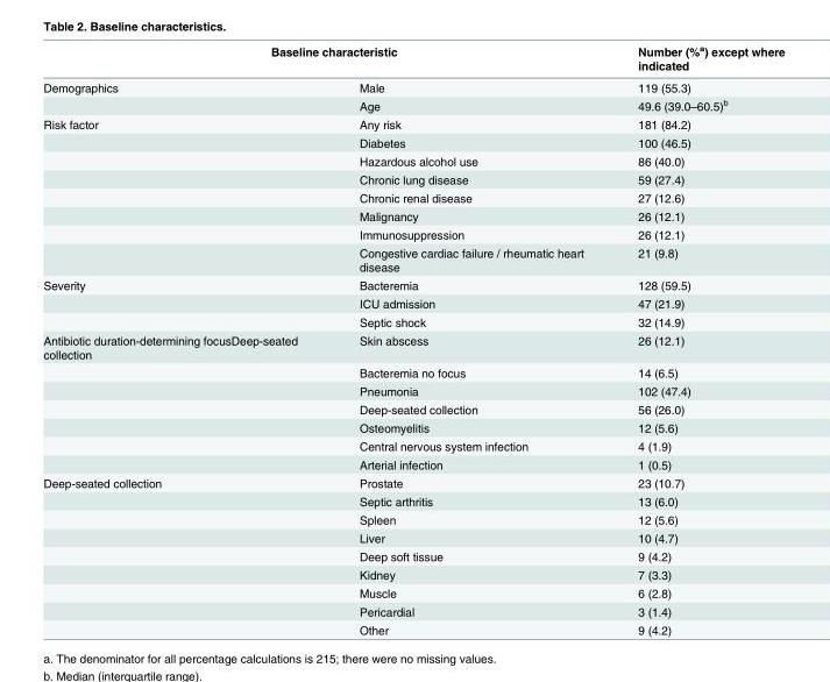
<table><thead><tr><td colspan="2">Baseline characteristic</td><td rowspan="2">Number (%<sup>a</sup>) except where indicated 119 (55.3)</td></tr><tr><td>Demographics</td><td>Male</td></tr></thead><tbody><tr><td></td><td>Age</td><td>49.6 (39.0–60.5)<sup>b</sup></td></tr><tr><td rowspan="8">Risk factor</td><td>Any risk</td><td>181 (84.2)</td></tr><tr><td>Diabetes</td><td>100 (46.5)</td></tr><tr><td>Hazardous alcohol use</td><td>86 (40.0)</td></tr><tr><td>Chronic lung disease</td><td>59 (27.4)</td></tr><tr><td>Chronic renal disease</td><td>27 (12.6)</td></tr><tr><td>Malignancy</td><td>26 (12.1)</td></tr><tr><td>Immunosuppression</td><td>26 (12.1)</td></tr><tr><td>Congestive cardiac failure / rheumatic heart disease</td><td>21 (9.8)</td></tr><tr><td rowspan="3">Severity</td><td>Bacteremia</td><td>128 (59.5)</td></tr><tr><td>ICU admission</td><td>47 (21.9)</td></tr><tr><td>Septic shock</td><td>32 (14.9)</td></tr><tr><td rowspan="7">Antibiotic duration-determining focusDeep-seated collection</td><td>Skin abscess</td><td>26 (12.1)</td></tr><tr><td>Bacteremia no focus</td><td>14 (6.5)</td></tr><tr><td>Pneumonia</td><td>102 (47.4)</td></tr><tr><td>Deep-seated collection</td><td>56 (26.0)</td></tr><tr><td>Osteomyelitis</td><td>12 (5.6)</td></tr><tr><td>Central nervous system infection</td><td>4 (1.9)</td></tr><tr><td>Arterial infection</td><td>1 (0.5)</td></tr><tr><td rowspan="9">Deep-seated collection</td><td>Prostate</td><td>23 (10.7)</td></tr><tr><td>Septic arthritis</td><td>13 (6.0)</td></tr><tr><td>Spleen</td><td>12 (5.6)</td></tr><tr><td>Liver</td><td>10 (4.7)</td></tr><tr><td>Deep soft tissue</td><td>9 (4.2)</td></tr><tr><td>Kidney</td><td>7 (3.3)</td></tr><tr><td>Muscle</td><td>6 (2.8)</td></tr><tr><td>Pericardial</td><td>3 (1.4)</td></tr><tr><td>Other</td><td>9 (4.2)</td></tr></tbody></table>